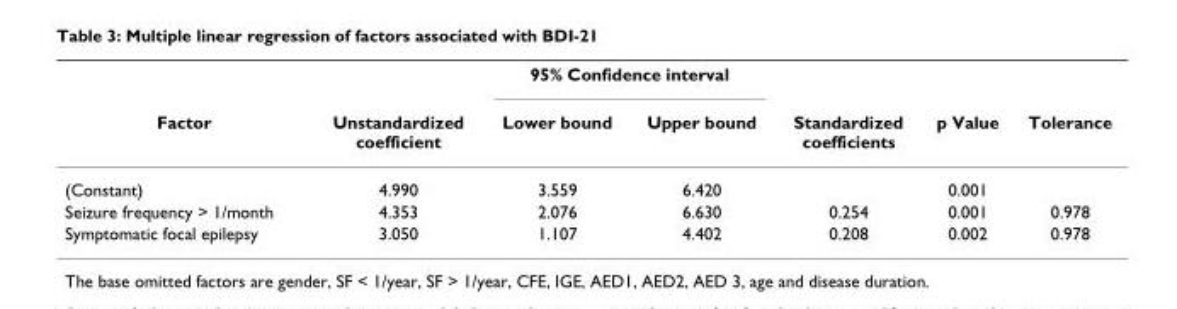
<table><thead><tr><td rowspan="2">Factor</td><td rowspan="2">Unstandardized coefficient</td><td colspan="2">95% Confidence interval</td><td rowspan="2">Standardized coefficients</td><td rowspan="2">p Value</td><td rowspan="2">Tolerance</td></tr><tr><td>Lower bound</td><td>Upper bound</td></tr></thead><tbody><tr><td>(Constant)</td><td>4.990</td><td>3.559</td><td>6.420</td><td></td><td>0.001</td><td></td></tr><tr><td>Seizure frequency &gt; 1/month</td><td>4.353</td><td>2.076</td><td>6.630</td><td>0.254</td><td>0.001</td><td>0.978</td></tr><tr><td>Symptomatic focal epilepsy</td><td>3.050</td><td>1.107</td><td>4.402</td><td>0.208</td><td>0.002</td><td>0.978</td></tr></tbody></table>